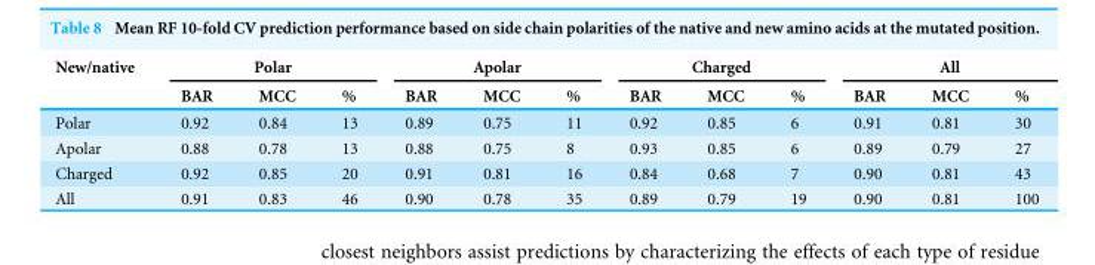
<table><thead><tr><td rowspan="2">New/native</td><td colspan="3">Polar</td><td colspan="3">Apolar</td><td colspan="3">Charged</td><td colspan="3">All</td></tr><tr><td>BAR</td><td>MCC</td><td>%</td><td>BAR</td><td>MCC</td><td>%</td><td>BAR</td><td>MCC</td><td>%</td><td>BAR</td><td>MCC</td><td>%</td></tr></thead><tbody><tr><td>Polar</td><td>0.92</td><td>0.84</td><td>13</td><td>0.89</td><td>0.75</td><td>11</td><td>0.92</td><td>0.85</td><td>6</td><td>0.91</td><td>0.81</td><td>30</td></tr><tr><td>Apolar</td><td>0.88</td><td>0.78</td><td>13</td><td>0.88</td><td>0.75</td><td>8</td><td>0.93</td><td>0.85</td><td>6</td><td>0.89</td><td>0.79</td><td>27</td></tr><tr><td>Charged</td><td>0.92</td><td>0.85</td><td>20</td><td>0.91</td><td>0.81</td><td>16</td><td>0.84</td><td>0.68</td><td>7</td><td>0.90</td><td>0.81</td><td>43</td></tr><tr><td>All</td><td>0.91</td><td>0.83</td><td>46</td><td>0.90</td><td>0.78</td><td>35</td><td>0.89</td><td>0.79</td><td>19</td><td>0.90</td><td>0.81</td><td>100</td></tr></tbody></table>